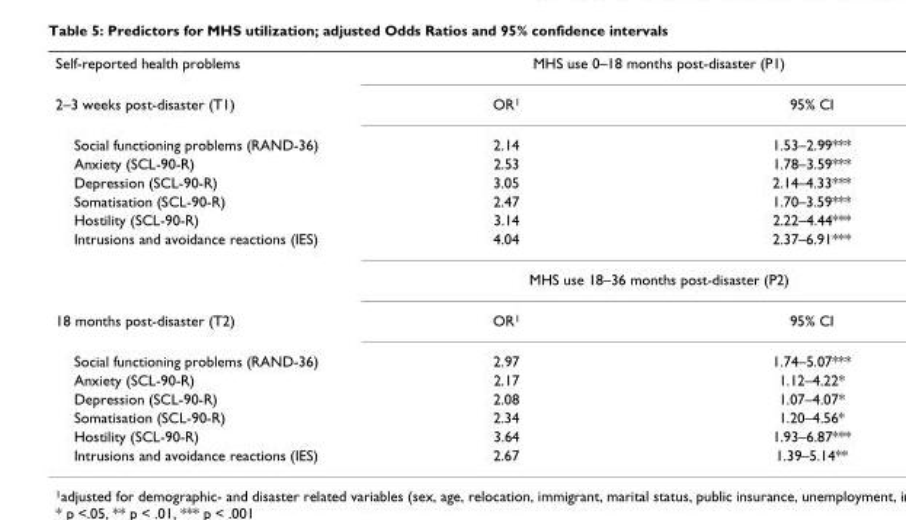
<table><tbody><tr><td>Self-reported health problems</td><td colspan="2">MHS use 0–18 months post-disaster (P1)</td></tr><tr><td>2–3 weeks post-disaster (T1)</td><td>OR<sup>1</sup></td><td>95% CI</td></tr><tr><td>Social functioning problems (RAND-36)</td><td>2.14</td><td>1.53–2.99***</td></tr><tr><td>Anxiety (SCL-90-R)</td><td>2.53</td><td>1.78–3.59***</td></tr><tr><td>Depression (SCL-90-R)</td><td>3.05</td><td>2.14–4.33***</td></tr><tr><td>Somatisation (SCL-90-R)</td><td>2.47</td><td>1.70–3.59***</td></tr><tr><td>Hostility (SCL-90-R)</td><td>3.14</td><td>2.22–4.44***</td></tr><tr><td rowspan="2">Intrusions and avoidance reactions (IES)</td><td>4.04</td><td>2.37–6.91***</td></tr><tr><td colspan="2">MHS use 18–36 months post-disaster (P2)</td></tr><tr><td>18 months post-disaster (T2)</td><td>OR<sup>1</sup></td><td>95% CI</td></tr><tr><td>Social functioning problems (RAND-36)</td><td>2.97</td><td>1.74–5.07***</td></tr><tr><td>Anxiety (SCL-90-R)</td><td>2.17</td><td>1.12–4.22*</td></tr><tr><td>Depression (SCL-90-R)</td><td>2.08</td><td>1.07–4.07*</td></tr><tr><td>Somatisation (SCL-90-R)</td><td>2.34</td><td>1.20–4.56*</td></tr><tr><td>Hostility (SCL-90-R)</td><td>3.64</td><td>1.93–6.87***</td></tr><tr><td>Intrusions and avoidance reactions (IES)</td><td>2.67</td><td>1.39–5.14**</td></tr></tbody></table>